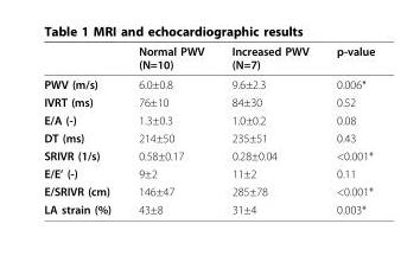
<table><thead><tr><td></td><td>Normal PWV (N=10)</td><td>Increased PWV (N=7)</td><td>p-value</td></tr></thead><tbody><tr><td>PWV (m/s)</td><td>6.0±0.8</td><td>9.6±2.3</td><td>0.006*</td></tr><tr><td>IVRT (ms)</td><td>76±10</td><td>84±30</td><td>0.52</td></tr><tr><td>E/A (-)</td><td>1.3±0.3</td><td>1.0±0.2</td><td>0.08</td></tr><tr><td>DT (ms)</td><td>214±50</td><td>235±51</td><td>0.43</td></tr><tr><td>SRIVR (1/s)</td><td>0.58±0.17</td><td>0.28±0.04</td><td>&lt;0.001*</td></tr><tr><td>E/E’ (-)</td><td>9±2</td><td>11±2</td><td>0.11</td></tr><tr><td>E/SRIVR (cm)</td><td>146±47</td><td>285±78</td><td>&lt;0.001*</td></tr><tr><td>LA strain (%)</td><td>43±8</td><td>31±4</td><td>0.003*</td></tr></tbody></table>